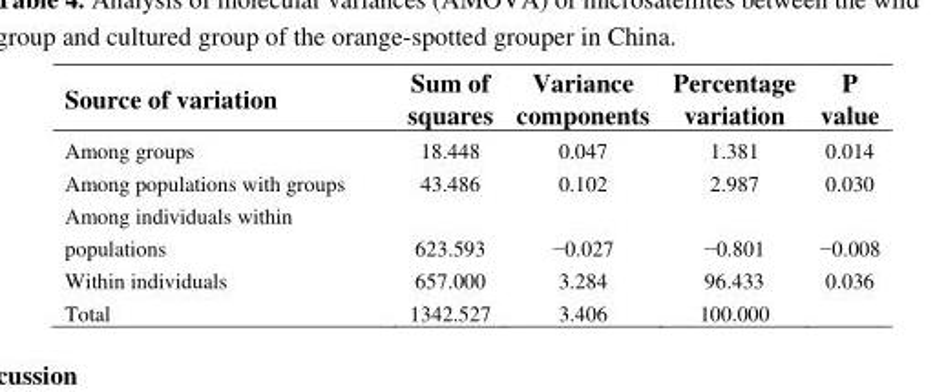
<table><thead><tr><td>Source of variation</td><td>Sum of squares</td><td>Variance components</td><td>Percentage variation</td><td>P value</td></tr></thead><tbody><tr><td>Among groups</td><td>18.448</td><td>0.047</td><td>1.381</td><td>0.014</td></tr><tr><td>Among populations with groups</td><td>43.486</td><td>0.102</td><td>2.987</td><td>0.030</td></tr><tr><td>Among individuals within populations</td><td>623.593</td><td>−0.027</td><td>−0.801</td><td>−0.008</td></tr><tr><td>Within individuals</td><td>657.000</td><td>3.284</td><td>96.433</td><td>0.036</td></tr><tr><td>Total</td><td>1342.527</td><td>3.406</td><td>100.000</td><td></td></tr></tbody></table>